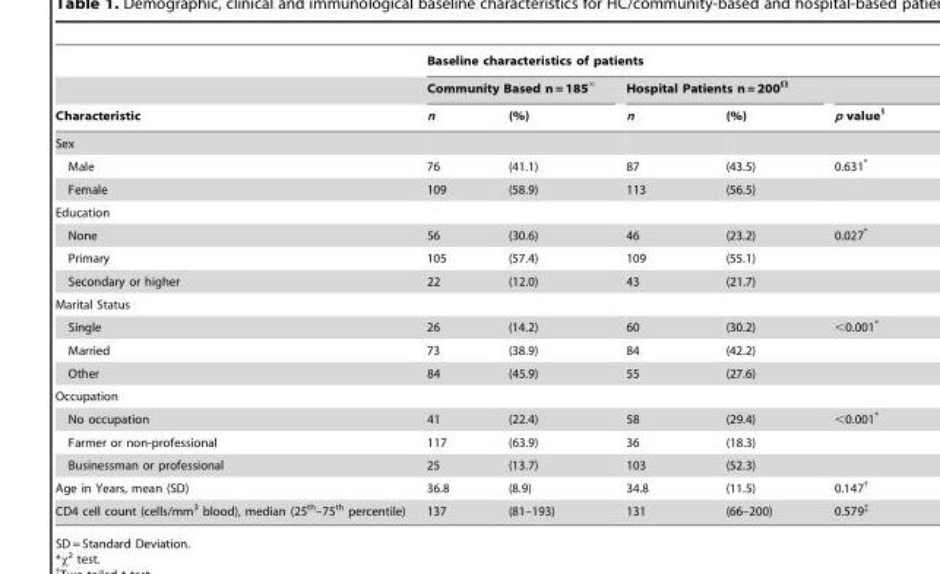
<table><thead><tr><td rowspan="3">Characteristic</td><td colspan="5">Baseline characteristics of patients</td></tr><tr><td colspan="2">Community Based n = 185‘</td><td colspan="2">Hospital Patients n = 200<sup>Ω</sup></td><td rowspan="2">p value<sup>§</sup></td></tr><tr><td>n</td><td>(%)</td><td>n</td><td>(%)</td></tr></thead><tbody><tr><td colspan="6">Sex</td></tr><tr><td>Male</td><td>76</td><td>(41.1)</td><td>87</td><td>(43.5)</td><td>0.631*</td></tr><tr><td>Female</td><td>109</td><td>(58.9)</td><td>113</td><td>(56.5)</td><td></td></tr><tr><td colspan="6">Education</td></tr><tr><td>None</td><td>56</td><td>(30.6)</td><td>46</td><td>(23.2)</td><td>0.027*</td></tr><tr><td>Primary</td><td>105</td><td>(57.4)</td><td>109</td><td>(55.1)</td><td></td></tr><tr><td>Secondary or higher</td><td>22</td><td>(12.0)</td><td>43</td><td>(21.7)</td><td></td></tr><tr><td colspan="6">Marital Status</td></tr><tr><td>Single</td><td>26</td><td>(14.2)</td><td>60</td><td>(30.2)</td><td>&lt;0.001*</td></tr><tr><td>Married</td><td>73</td><td>(38.9)</td><td>84</td><td>(42.2)</td><td></td></tr><tr><td>Other</td><td>84</td><td>(45.9)</td><td>55</td><td>(27.6)</td><td></td></tr><tr><td colspan="6">Occupation</td></tr><tr><td>No occupation</td><td>41</td><td>(22.4)</td><td>58</td><td>(29.4)</td><td>&lt;0.001*</td></tr><tr><td>Farmer or non-professional</td><td>117</td><td>(63.9)</td><td>36</td><td>(18.3)</td><td></td></tr><tr><td>Businessman or professional</td><td>25</td><td>(13.7)</td><td>103</td><td>(52.3)</td><td></td></tr><tr><td>Age in Years, mean (SD)</td><td>36.8</td><td>(8.9)</td><td>34.8</td><td>(11.5)</td><td>0.147†</td></tr><tr><td>CD4 cell count (cells/mm<sup>3</sup> blood), median (25<sup>th</sup>–75<sup>th</sup> percentile)</td><td>137</td><td>(81–193)</td><td>131</td><td>(66–200)</td><td>0.579‡</td></tr></tbody></table>